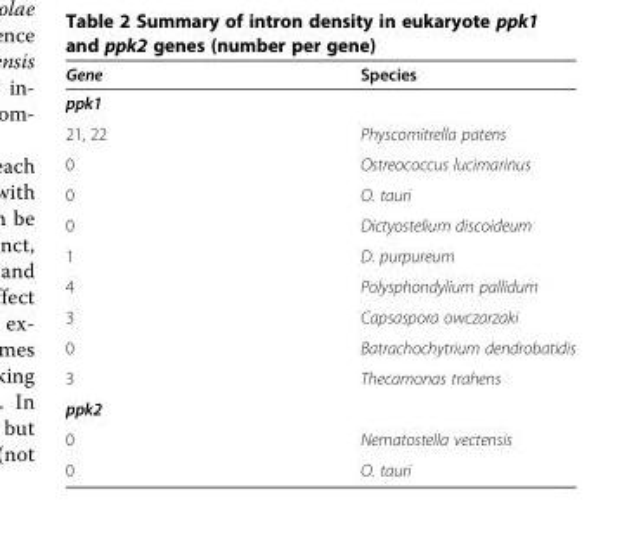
<table><thead><tr><td>Gene</td><td>Species</td></tr></thead><tbody><tr><td colspan="2">ppk1</td></tr><tr><td>21, 22</td><td>Physcomitrella patens</td></tr><tr><td>0</td><td>Ostreococcus lucimarinus</td></tr><tr><td>0</td><td>O. tauri</td></tr><tr><td>0</td><td>Dictyostelium discoideum</td></tr><tr><td>1</td><td>D. purpureum</td></tr><tr><td>4</td><td>Polysphondylium pallidum</td></tr><tr><td>3</td><td>Capsaspora owczarzaki</td></tr><tr><td>0</td><td>Batrachochytrium dendrobatidis</td></tr><tr><td>3</td><td>Thecamonas trahens</td></tr><tr><td colspan="2">ppk2</td></tr><tr><td>0</td><td>Nematostella vectensis</td></tr><tr><td>0</td><td>O. tauri</td></tr></tbody></table>